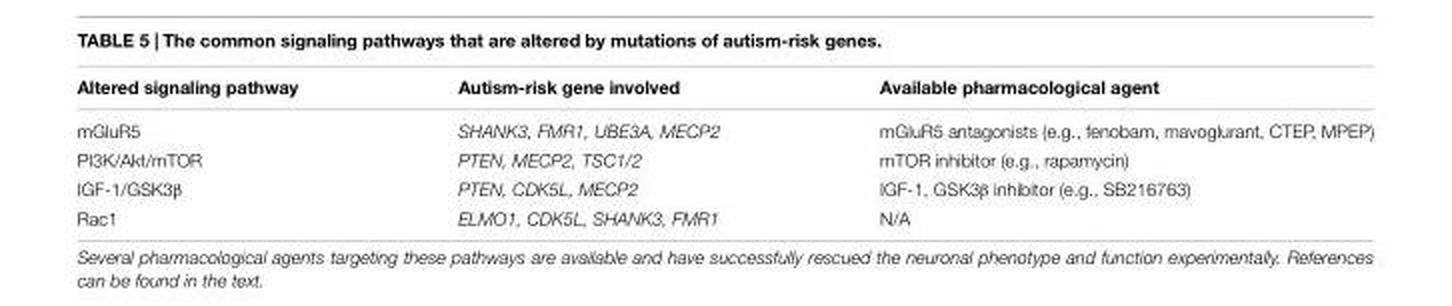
<table><thead><tr><td>Altered signaling pathway</td><td>Autism-risk gene involved</td><td>Available pharmacological agent</td></tr></thead><tbody><tr><td>mGluR5</td><td>SHANK3, FMR1, UBE3A, MECP2</td><td>mGluR5 antagonists (e.g., fenobam, mavoglurant, CTEP, MPEP)</td></tr><tr><td>PI3K/Akt/mTOR</td><td>PTEN, MECP2, TSC1/2</td><td>mTOR inhibitor (e.g., rapamycin)</td></tr><tr><td>IGF-1/GSK3β</td><td>PTEN, CDK5L, MECP2</td><td>IGF-1, GSK3β inhibitor (e.g., SB216763)</td></tr><tr><td>Rac1</td><td>ELMO1, CDK5L, SHANK3, FMR1</td><td>N/A</td></tr></tbody></table>